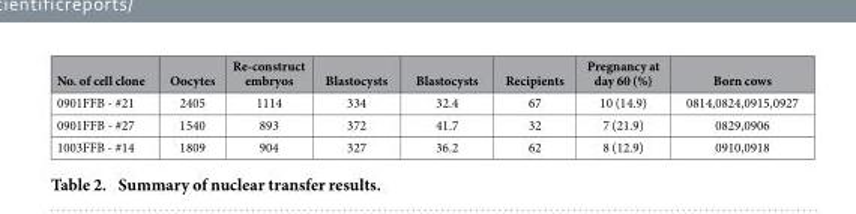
<table><thead><tr><td>No. of cell clone</td><td>Oocytes</td><td>Re-construct embryos</td><td>Blastocysts</td><td>Blastocysts</td><td>Recipients</td><td>Pregnancy at day 60 (%)</td><td>Born cows</td></tr></thead><tbody><tr><td>0901FFB - #21</td><td>2405</td><td>1114</td><td>334</td><td>32.4</td><td>67</td><td>10 (14.9)</td><td>0814,0824,0915,0927</td></tr><tr><td>0901FFB - #27</td><td>1540</td><td>893</td><td>372</td><td>41.7</td><td>32</td><td>7 (21.9)</td><td>0829,0906</td></tr><tr><td>1003FFB - #14</td><td>1809</td><td>904</td><td>327</td><td>36.2</td><td>62</td><td>8 (12.9)</td><td>0910,0918</td></tr></tbody></table>